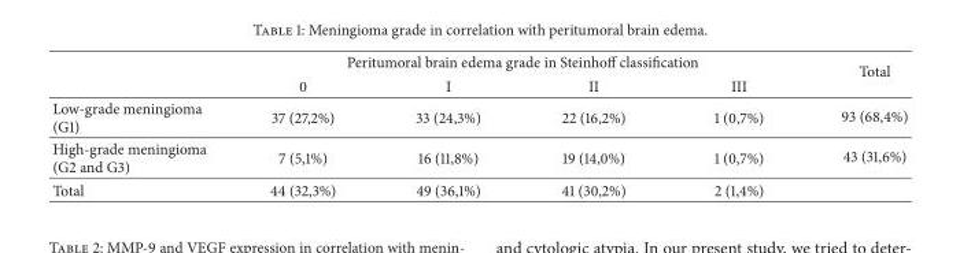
<table><thead><tr><td rowspan="2"></td><td colspan="4">Peritumoral brain edema grade in Steinhoff classification</td><td rowspan="2">Total</td></tr><tr><td>0</td><td>I</td><td>II</td><td>III</td></tr></thead><tbody><tr><td>Low-grade meningioma (G1)</td><td>37 (27,2%)</td><td>33 (24,3%)</td><td>22 (16,2%)</td><td>1 (0,7%)</td><td>93 (68,4%)</td></tr><tr><td>High-grade meningioma (G2 and G3)</td><td>7 (5,1%)</td><td>16 (11,8%)</td><td>19 (14,0%)</td><td>1 (0,7%)</td><td>43 (31,6%)</td></tr><tr><td>Total</td><td>44 (32,3%)</td><td>49 (36,1%)</td><td>41 (30,2%)</td><td>2 (1,4%)</td><td></td></tr></tbody></table>